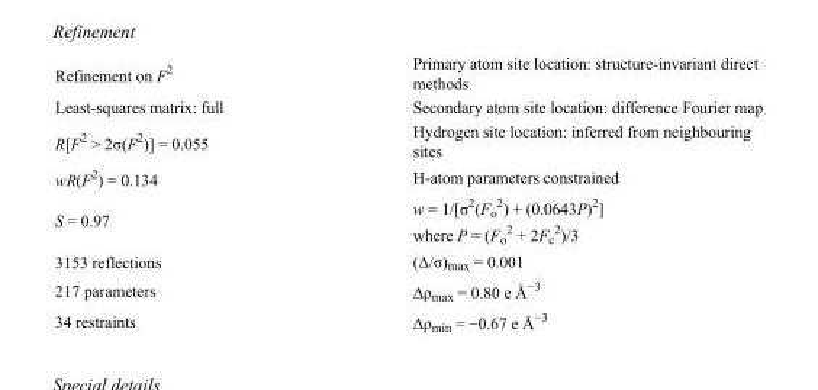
<table><tbody><tr><td>Refinement on F<sup>2</sup></td><td>Primary atom site location: structure-invariant direct methods</td></tr><tr><td>Least-squares matrix: full</td><td>Secondary atom site location: difference Fourier map</td></tr><tr><td>R[F<sup>2</sup> &gt; 2σ(F<sup>2</sup>)] = 0.055</td><td>Hydrogen site location: inferred from neighbouring sites</td></tr><tr><td>wR(F<sup>2</sup>) = 0.134</td><td>H-atom parameters constrained</td></tr><tr><td>S = 0.97</td><td>w = 1/[σ<sup>2</sup>(F<sub>o</sub> <sup>2</sup>) + (0.0643P)<sup>2</sup>] where P = (F<sub>o</sub> <sup>2</sup> + 2F<sub>c</sub> <sup>2</sup>)/3</td></tr><tr><td>3153 reflections</td><td>(Δ/σ)<sub>max</sub> = 0.001</td></tr><tr><td>217 parameters</td><td>Δρ<sub>max</sub> = 0.80 e Å<sup>−3</sup></td></tr><tr><td>34 restraints</td><td>Δρ<sub>min</sub> = −0.67 e Å<sup>−3</sup></td></tr></tbody></table>